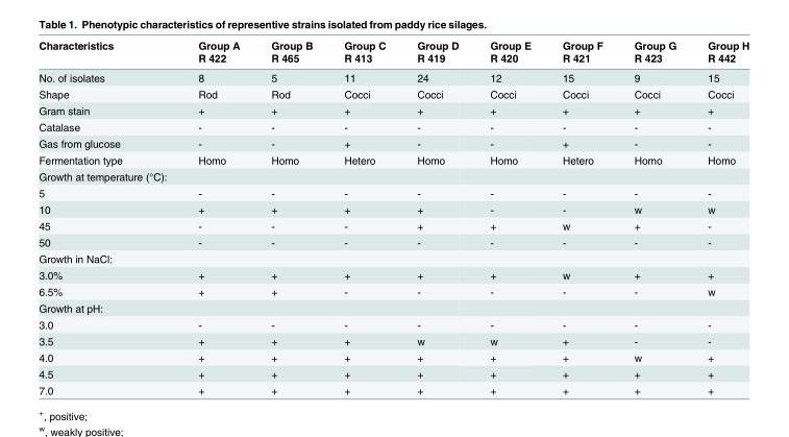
<table><thead><tr><td rowspan="2">Characteristics</td><td rowspan="2">Group A R 422</td><td rowspan="2">Group B R 465</td><td rowspan="2">Group C R 413</td><td rowspan="2">Group D R 419</td><td rowspan="2">Group E R 420</td><td rowspan="2">Group F R 421</td><td rowspan="2">Group G R 423</td><td rowspan="2">Group H R 442</td></tr><tr></tr></thead><tbody><tr><td>No. of isolates</td><td>8</td><td>5</td><td>11</td><td>24</td><td>12</td><td>15</td><td>9</td><td>15</td></tr><tr><td>Shape</td><td>Rod</td><td>Rod</td><td>Cocci</td><td>Cocci</td><td>Cocci</td><td>Cocci</td><td>Cocci</td><td>Cocci</td></tr><tr><td>Gram stain</td><td>+</td><td>+</td><td>+</td><td>+</td><td>+</td><td>+</td><td>+</td><td>+</td></tr><tr><td>Catalase</td><td>-</td><td>-</td><td>-</td><td>-</td><td>-</td><td>-</td><td>-</td><td>-</td></tr><tr><td>Gas from glucose</td><td>-</td><td>-</td><td>+</td><td>-</td><td>-</td><td>+</td><td>-</td><td>-</td></tr><tr><td>Fermentation type</td><td>Homo</td><td>Homo</td><td>Hetero</td><td>Homo</td><td>Homo</td><td>Hetero</td><td>Homo</td><td>Homo</td></tr><tr><td colspan="9">Growth at temperature (°C):</td></tr><tr><td>5</td><td>-</td><td>-</td><td>-</td><td>-</td><td>-</td><td>-</td><td>-</td><td>-</td></tr><tr><td>10</td><td>+</td><td>+</td><td>+</td><td>+</td><td>-</td><td>-</td><td>w</td><td>w</td></tr><tr><td>45</td><td>-</td><td>-</td><td>-</td><td>+</td><td>+</td><td>w</td><td>+</td><td>-</td></tr><tr><td>50</td><td>-</td><td>-</td><td>-</td><td>-</td><td>-</td><td>-</td><td>-</td><td>-</td></tr><tr><td colspan="9">Growth in NaCl:</td></tr><tr><td>3.0%</td><td>+</td><td>+</td><td>+</td><td>+</td><td>+</td><td>w</td><td>+</td><td>+</td></tr><tr><td>6.5%</td><td>+</td><td>+</td><td>-</td><td>-</td><td>-</td><td>-</td><td>-</td><td>w</td></tr><tr><td colspan="9">Growth at pH:</td></tr><tr><td>3.0</td><td>-</td><td>-</td><td>-</td><td>-</td><td>-</td><td>-</td><td>-</td><td>-</td></tr><tr><td>3.5</td><td>+</td><td>+</td><td>+</td><td>w</td><td>w</td><td>+</td><td>-</td><td>-</td></tr><tr><td>4.0</td><td>+</td><td>+</td><td>+</td><td>+</td><td>+</td><td>+</td><td>w</td><td>+</td></tr><tr><td>4.5</td><td>+</td><td>+</td><td>+</td><td>+</td><td>+</td><td>+</td><td>+</td><td>+</td></tr><tr><td>7.0</td><td>+</td><td>+</td><td>+</td><td>+</td><td>+</td><td>+</td><td>+</td><td>+</td></tr></tbody></table>